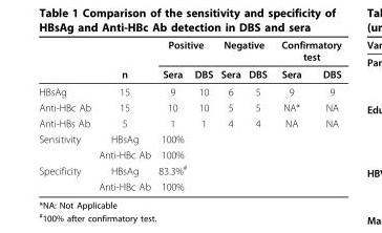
<table><thead><tr><td rowspan="2"></td><td rowspan="2">n</td><td colspan="2">Positive</td><td colspan="2">Negative</td><td colspan="2">Confirmatory test</td></tr><tr><td>Sera</td><td>DBS</td><td>Sera</td><td>DBS</td><td>Sera</td><td>DBS</td></tr></thead><tbody><tr><td>HBsAg</td><td>15</td><td>9</td><td>10</td><td>6</td><td>5</td><td>9</td><td>9</td></tr><tr><td>Anti-HBc Ab</td><td>15</td><td>10</td><td>10</td><td>5</td><td>5</td><td>NA*</td><td>NA</td></tr><tr><td>Anti-HBs Ab</td><td>5</td><td>1</td><td>1</td><td>4</td><td>4</td><td>NA</td><td>NA</td></tr><tr><td rowspan="2">Sensitivity</td><td>HBsAg</td><td>100%</td><td></td><td></td><td></td><td></td><td></td></tr><tr><td>Anti-HBc Ab</td><td>100%</td><td></td><td></td><td></td><td></td><td></td></tr><tr><td rowspan="2">Specificity</td><td>HBsAg</td><td>83.3%<sup>#</sup></td><td></td><td></td><td></td><td></td><td></td></tr><tr><td>Anti-HBc Ab</td><td>100%</td><td></td><td></td><td></td><td></td><td></td></tr></tbody></table>